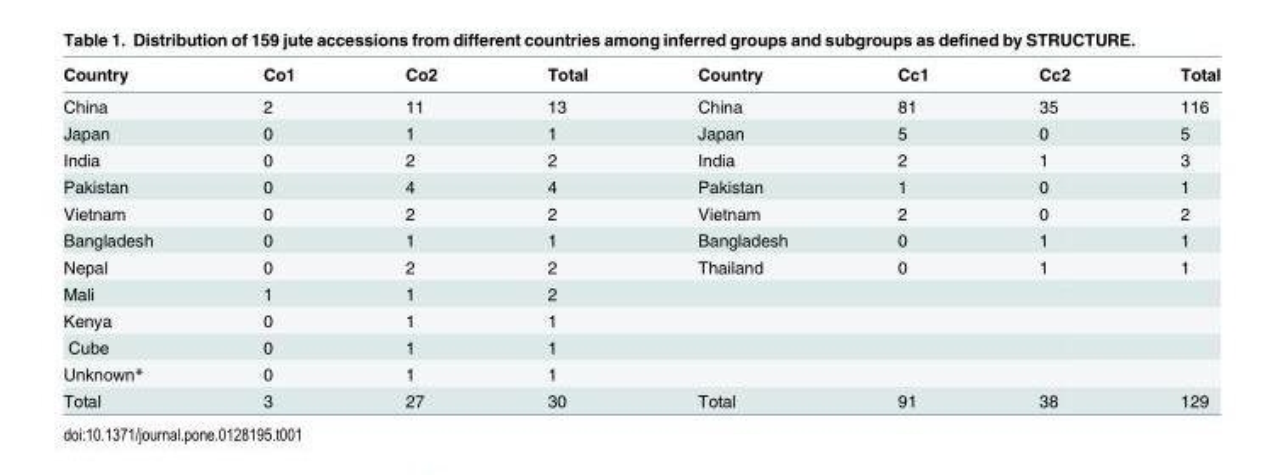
<table><thead><tr><td>Country</td><td>Co1</td><td>Co2</td><td>Total</td><td>Country</td><td>Cc1</td><td>Cc2</td><td>Total</td></tr></thead><tbody><tr><td>China</td><td>2</td><td>11</td><td>13</td><td>China</td><td>81</td><td>35</td><td>116</td></tr><tr><td>Japan</td><td>0</td><td>1</td><td>1</td><td>Japan</td><td>5</td><td>0</td><td>5</td></tr><tr><td>India</td><td>0</td><td>2</td><td>2</td><td>India</td><td>2</td><td>1</td><td>3</td></tr><tr><td>Pakistan</td><td>0</td><td>4</td><td>4</td><td>Pakistan</td><td>1</td><td>0</td><td>1</td></tr><tr><td>Vietnam</td><td>0</td><td>2</td><td>2</td><td>Vietnam</td><td>2</td><td>0</td><td>2</td></tr><tr><td>Bangladesh</td><td>0</td><td>1</td><td>1</td><td>Bangladesh</td><td>0</td><td>1</td><td>1</td></tr><tr><td>Nepal</td><td>0</td><td>2</td><td>2</td><td>Thailand</td><td>0</td><td>1</td><td>1</td></tr><tr><td>Mali</td><td>1</td><td>1</td><td>2</td><td></td><td></td><td></td><td></td></tr><tr><td>Kenya</td><td>0</td><td>1</td><td>1</td><td></td><td></td><td></td><td></td></tr><tr><td>Cube</td><td>0</td><td>1</td><td>1</td><td></td><td></td><td></td><td></td></tr><tr><td>Unknown*</td><td>0</td><td>1</td><td>1</td><td></td><td></td><td></td><td></td></tr><tr><td>Total</td><td>3</td><td>27</td><td>30</td><td>Total</td><td>91</td><td>38</td><td>129</td></tr></tbody></table>